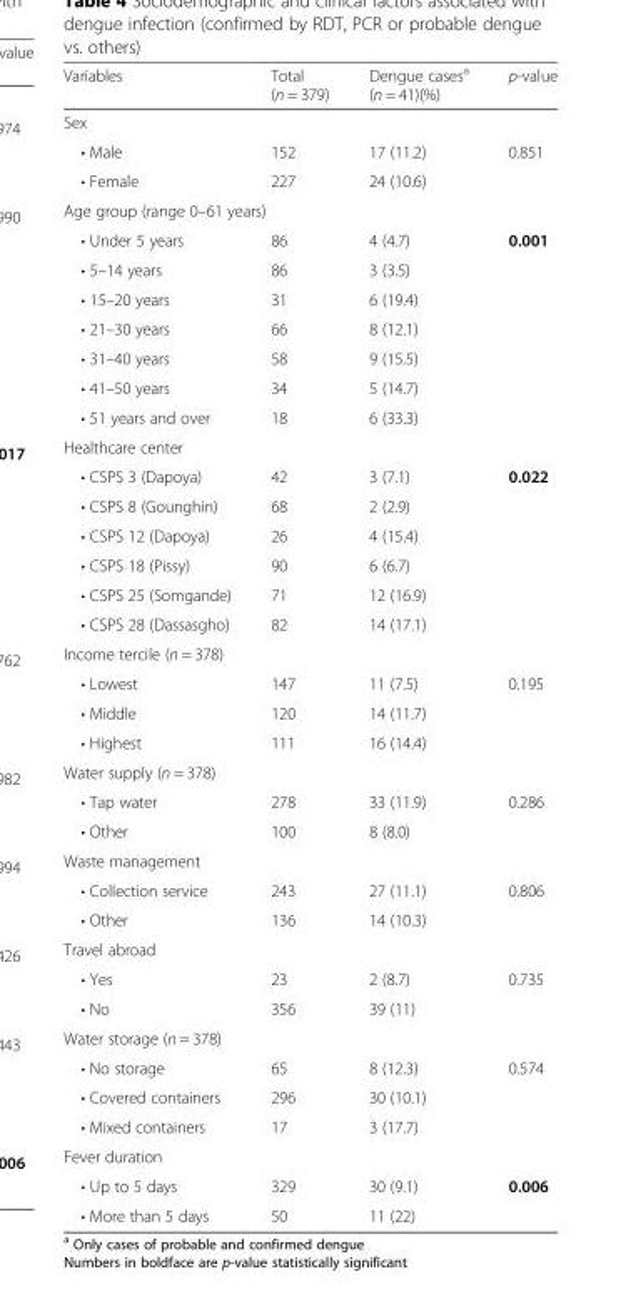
<table><thead><tr><td>Variables</td><td>Total (n = 379)</td><td>Dengue cases<sup>a</sup> (n = 41)(%)</td><td>p-value</td></tr></thead><tbody><tr><td colspan="4">Sex</td></tr><tr><td>• Male</td><td>152</td><td>17 (11.2)</td><td rowspan="2">0.851</td></tr><tr><td>• Female</td><td>227</td><td>24 (10.6)</td></tr><tr><td colspan="4">Age group (range 0–61 years)</td></tr><tr><td>• Under 5 years</td><td>86</td><td>4 (4.7)</td><td rowspan="7">0.001</td></tr><tr><td>• 5–14 years</td><td>86</td><td>3 (3.5)</td></tr><tr><td>• 15–20 years</td><td>31</td><td>6 (19.4)</td></tr><tr><td>• 21–30 years</td><td>66</td><td>8 (12.1)</td></tr><tr><td>• 31–40 years</td><td>58</td><td>9 (15.5)</td></tr><tr><td>• 41–50 years</td><td>34</td><td>5 (14.7)</td></tr><tr><td>• 51 years and over</td><td>18</td><td>6 (33.3)</td></tr><tr><td colspan="4">Healthcare center</td></tr><tr><td>• CSPS 3 (Dapoya)</td><td>42</td><td>3 (7.1)</td><td rowspan="6">0.022</td></tr><tr><td>• CSPS 8 (Gounghin)</td><td>68</td><td>2 (2.9)</td></tr><tr><td>• CSPS 12 (Dapoya)</td><td>26</td><td>4 (15.4)</td></tr><tr><td>• CSPS 18 (Pissy)</td><td>90</td><td>6 (6.7)</td></tr><tr><td>• CSPS 25 (Somgande)</td><td>71</td><td>12 (16.9)</td></tr><tr><td>• CSPS 28 (Dassasgho)</td><td>82</td><td>14 (17.1)</td></tr><tr><td colspan="4">Income tercile (n = 378)</td></tr><tr><td>• Lowest</td><td>147</td><td>11 (7.5)</td><td rowspan="3">0.195</td></tr><tr><td>• Middle</td><td>120</td><td>14 (11.7)</td></tr><tr><td>• Highest</td><td>111</td><td>16 (14.4)</td></tr><tr><td colspan="4">Water supply (n = 378)</td></tr><tr><td>• Tap water</td><td>278</td><td>33 (11.9)</td><td rowspan="2">0.286</td></tr><tr><td>• Other</td><td>100</td><td>8 (8.0)</td></tr><tr><td colspan="4">Waste management</td></tr><tr><td>• Collection service</td><td>243</td><td>27 (11.1)</td><td rowspan="2">0.806</td></tr><tr><td>• Other</td><td>136</td><td>14 (10.3)</td></tr><tr><td colspan="4">Travel abroad</td></tr><tr><td>• Yes</td><td>23</td><td>2 (8.7)</td><td rowspan="2">0.735</td></tr><tr><td>• No</td><td>356</td><td>39 (11)</td></tr><tr><td colspan="4">Water storage (n = 378)</td></tr><tr><td>• No storage</td><td>65</td><td>8 (12.3)</td><td rowspan="3">0.574</td></tr><tr><td>• Covered containers</td><td>296</td><td>30 (10.1)</td></tr><tr><td>• Mixed containers</td><td>17</td><td>3 (17.7)</td></tr><tr><td colspan="4">Fever duration</td></tr><tr><td>• Up to 5 days</td><td>329</td><td>30 (9.1)</td><td rowspan="2">0.006</td></tr><tr><td>• More than 5 days</td><td>50</td><td>11 (22)</td></tr></tbody></table>